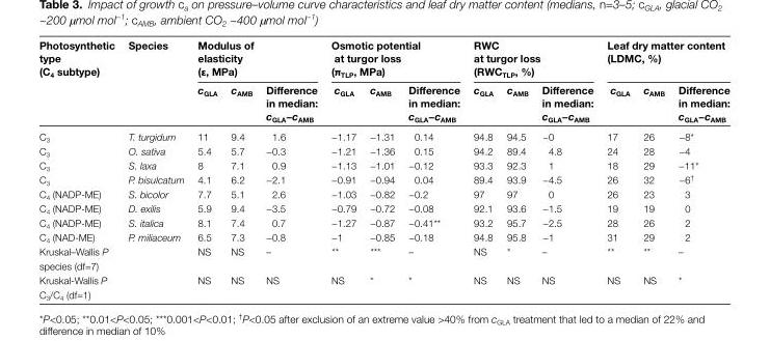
<table><thead><tr><td rowspan="2">Photosynthetic type (C<sub>4</sub> subtype)</td><td rowspan="2">Species</td><td colspan="3">Modulus of elasticity (ε, MPa)</td><td colspan="3">Osmotic potential at turgor loss (π<sub>TLP</sub>, MPa)</td><td colspan="3">RWC at turgor loss (RWC<sub>TLP</sub>, %)</td><td colspan="3">Leaf dry matter content (LDMC, %)</td></tr><tr><td>c<sub>GLA</sub></td><td>c<sub>AMB</sub></td><td>Difference in median: c<sub>GLA</sub>−c<sub>AMB</sub></td><td>c<sub>GLA</sub></td><td>c<sub>AMB</sub></td><td>Difference in median: c<sub>GLA</sub>−c<sub>AMB</sub></td><td>c<sub>GLA</sub></td><td>c<sub>AMB</sub></td><td>Difference in median: c<sub>GLA</sub>−c<sub>AMB</sub></td><td>c<sub>GLA</sub></td><td>c<sub>AMB</sub></td><td>Difference in median: c<sub>GLA</sub>−c<sub>AMB</sub></td></tr></thead><tbody><tr><td>C<sub>3</sub></td><td>T. turgidum</td><td>11</td><td>9.4</td><td>1.6</td><td>−1.17</td><td>−1.31</td><td>0.14</td><td>94.8</td><td>94.5</td><td>~0</td><td>17</td><td>26</td><td>−8*</td></tr><tr><td>C<sub>3</sub></td><td>O. sativa</td><td>5.4</td><td>5.7</td><td>−0.3</td><td>−1.21</td><td>−1.36</td><td>0.15</td><td>94.2</td><td>89.4</td><td>4.8</td><td>24</td><td>28</td><td>−4</td></tr><tr><td>C<sub>3</sub></td><td>S. laxa</td><td>8</td><td>7.1</td><td>0.9</td><td>−1.13</td><td>−1.01</td><td>−0.12</td><td>93.3</td><td>92.3</td><td>1</td><td>18</td><td>29</td><td>−11*</td></tr><tr><td>C<sub>3</sub></td><td>P. bisulcatum</td><td>4.1</td><td>6.2</td><td>−2.1</td><td>−0.91</td><td>−0.94</td><td>0.04</td><td>89.4</td><td>93.9</td><td>−4.5</td><td>26</td><td>32</td><td>−6<sup>†</sup></td></tr><tr><td>C<sub>4</sub> (NADP-ME)</td><td>S. bicolor</td><td>7.7</td><td>5.1</td><td>2.6</td><td>−1.03</td><td>−0.82</td><td>−0.2</td><td>97</td><td>97</td><td>0</td><td>26</td><td>23</td><td>3</td></tr><tr><td>C<sub>4</sub> (NADP-ME)</td><td>D. exilis</td><td>5.9</td><td>9.4</td><td>−3.5</td><td>−0.79</td><td>−0.72</td><td>−0.08</td><td>92.1</td><td>93.6</td><td>−1.5</td><td>19</td><td>19</td><td>0</td></tr><tr><td>C<sub>4</sub> (NADP-ME)</td><td>S. italica</td><td>8.1</td><td>7.4</td><td>0.7</td><td>−1.27</td><td>−0.87</td><td>−0.41**</td><td>93.2</td><td>95.7</td><td>−2.5</td><td>28</td><td>26</td><td>2</td></tr><tr><td>C<sub>4</sub> (NAD-ME)</td><td>P. miliaceum</td><td>6.5</td><td>7.3</td><td>−0.8</td><td>−1</td><td>−0.85</td><td>−0.18</td><td>94.8</td><td>95.8</td><td>−1</td><td>31</td><td>29</td><td>2</td></tr><tr><td>Kruskal–Wallis P species (df=7)</td><td></td><td>NS</td><td>NS</td><td>–</td><td>**</td><td>***</td><td>–</td><td>NS</td><td>*</td><td>–</td><td>**</td><td>**</td><td>–</td></tr><tr><td>Kruskal-Wallis P C<sub>3</sub>/C<sub>4</sub> (df=1)</td><td></td><td>NS</td><td>NS</td><td>NS</td><td>NS</td><td>*</td><td>*</td><td>NS</td><td>NS</td><td>NS</td><td>NS</td><td>NS</td><td>*</td></tr></tbody></table>